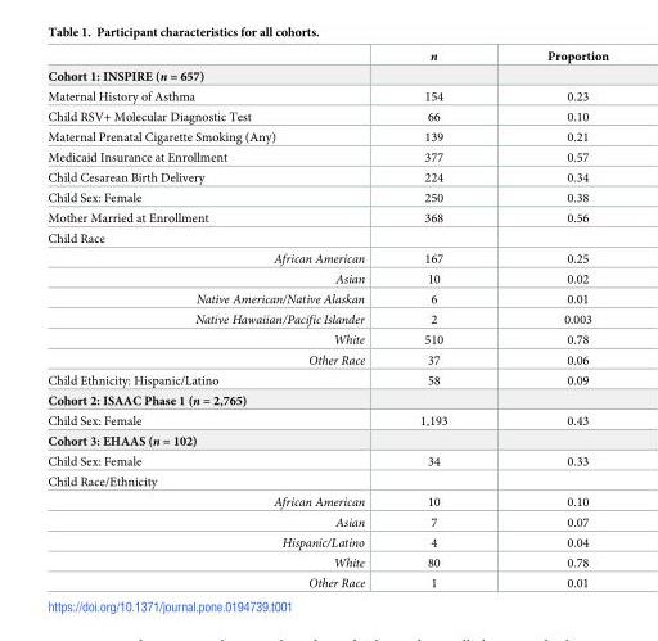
<table><thead><tr><td></td><td>n</td><td>Proportion</td></tr></thead><tbody><tr><td colspan="3">Cohort 1: INSPIRE (n = 657)</td></tr><tr><td>Maternal History of Asthma</td><td>154</td><td>0.23</td></tr><tr><td>Child RSV+ Molecular Diagnostic Test</td><td>66</td><td>0.10</td></tr><tr><td>Maternal Prenatal Cigarette Smoking (Any)</td><td>139</td><td>0.21</td></tr><tr><td>Medicaid Insurance at Enrollment</td><td>377</td><td>0.57</td></tr><tr><td>Child Cesarean Birth Delivery</td><td>224</td><td>0.34</td></tr><tr><td>Child Sex: Female</td><td>250</td><td>0.38</td></tr><tr><td>Mother Married at Enrollment</td><td>368</td><td>0.56</td></tr><tr><td colspan="3">Child Race</td></tr><tr><td>African American</td><td>167</td><td>0.25</td></tr><tr><td>Asian</td><td>10</td><td>0.02</td></tr><tr><td>Native American/Native Alaskan</td><td>6</td><td>0.01</td></tr><tr><td>Native Hawaiian/Pacific Islander</td><td>2</td><td>0.003</td></tr><tr><td>White</td><td>510</td><td>0.78</td></tr><tr><td>Other Race</td><td>37</td><td>0.06</td></tr><tr><td>Child Ethnicity: Hispanic/Latino</td><td>58</td><td>0.09</td></tr><tr><td colspan="3">Cohort 2: ISAAC Phase 1 (n = 2,765)</td></tr><tr><td>Child Sex: Female</td><td>1,193</td><td>0.43</td></tr><tr><td colspan="3">Cohort 3: EHAAS (n = 102)</td></tr><tr><td>Child Sex: Female</td><td>34</td><td>0.33</td></tr><tr><td colspan="3">Child Race/Ethnicity</td></tr><tr><td>African American</td><td>10</td><td>0.10</td></tr><tr><td>Asian</td><td>7</td><td>0.07</td></tr><tr><td>Hispanic/Latino</td><td>4</td><td>0.04</td></tr><tr><td>White</td><td>80</td><td>0.78</td></tr><tr><td>Other Race</td><td>1</td><td>0.01</td></tr></tbody></table>